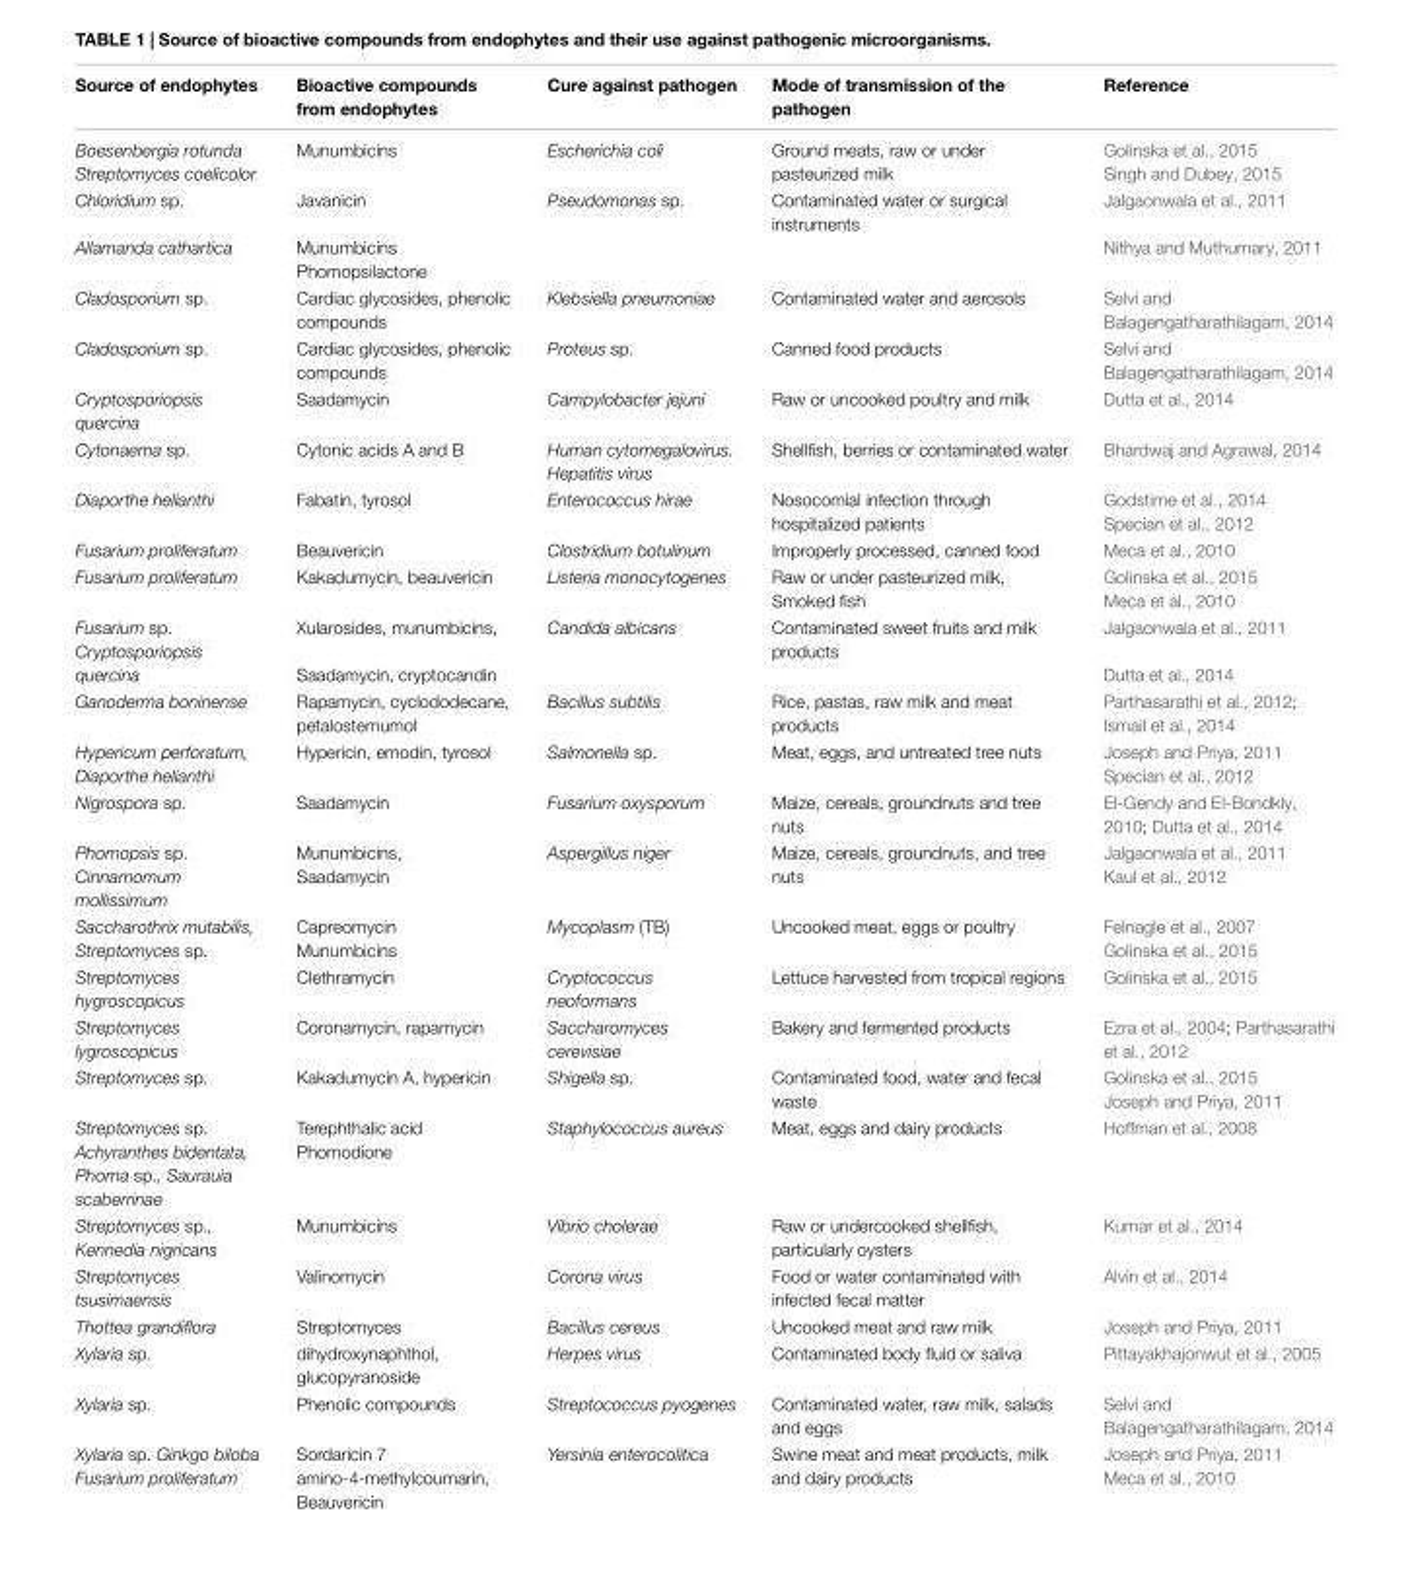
<table><thead><tr><td>Source of endophytes</td><td>Bioactive compounds from endophytes</td><td>Cure against pathogen</td><td>Mode of transmission of the pathogen</td><td>Reference</td></tr></thead><tbody><tr><td>Boesenbergia rotunda Streptomyces coelicolor</td><td>Munumbicins</td><td>Escherichia coli</td><td>Ground meats, raw or under pasteurized milk</td><td>Golinska et al., 2015 Singh and Dubey, 2015</td></tr><tr><td>Chloridium sp. Allamanda cathartica</td><td>Javanicin Munumbicins Phomopsilactone</td><td>Pseudomonas sp.</td><td>Contaminated water or surgical instruments</td><td>Jalgaonwala et al., 2011 Nithya and Muthumary, 2011</td></tr><tr><td>Cladosporium sp.</td><td>Cardiac glycosides, phenolic compounds</td><td>Klebsiella pneumoniae</td><td>Contaminated water and aerosols</td><td>Selvi and Balagengatharathilagam, 2014</td></tr><tr><td>Cladosporium sp.</td><td>Cardiac glycosides, phenolic compounds</td><td>Proteus sp.</td><td>Canned food products</td><td>Selvi and Balagengatharathilagam, 2014</td></tr><tr><td>Cryptosporiopsis quercina</td><td>Saadamycin</td><td>Campylobacter jejuni</td><td>Raw or uncooked poultry and milk</td><td>Dutta et al., 2014</td></tr><tr><td>Cytonaema sp.</td><td>Cytonic acids A and B</td><td>Human cytomegalovirus. Hepatitis virus</td><td>Shellfish, berries or contaminated water</td><td>Bhardwaj and Agrawal, 2014</td></tr><tr><td>Diaporthe helianthi</td><td>Fabatin, tyrosol</td><td>Enterococcus hirae</td><td>Nosocomial infection through hospitalized patients</td><td>Godstime et al., 2014 Specian et al., 2012</td></tr><tr><td>Fusarium proliferatum</td><td>Beauvericin</td><td>Clostridium botulinum</td><td>Improperly processed, canned food</td><td>Meca et al., 2010</td></tr><tr><td>Fusarium proliferatum</td><td>Kakadumycin, beauvericin</td><td>Listeria monocytogenes</td><td>Raw or under pasteurized milk, Smoked fish</td><td>Golinska et al., 2015 Meca et al., 2010</td></tr><tr><td>Fusarium sp. Cryptosporiopsis quercina</td><td>Xularosides, munumbicins, Saadamycin, cryptocandin</td><td>Candida albicans</td><td>Contaminated sweet fruits and milk products</td><td>Jalgaonwala et al., 2011 Dutta et al., 2014</td></tr><tr><td>Ganoderma boninense</td><td>Rapamycin, cyclododecane, petalostemumol</td><td>Bacillus subtilis</td><td>Rice, pastas, raw milk and meat products</td><td>Parthasarathi et al., 2012; Ismail et al., 2014</td></tr><tr><td>Hypericum perforatum, Diaporthe helianthi</td><td>Hypericin, emodin, tyrosol</td><td>Salmonella sp.</td><td>Meat, eggs, and untreated tree nuts</td><td>Joseph and Priya, 2011 Specian et al., 2012</td></tr><tr><td>Nigrospora sp.</td><td>Saadamycin</td><td>Fusarium oxysporum</td><td>Maize, cereals, groundnuts and tree nuts</td><td>El-Gendy and El-Bondkly, 2010; Dutta et al., 2014</td></tr><tr><td>Phomopsis sp. Cinnamomum mollissimum</td><td>Munumbicins, Saadamycin</td><td>Aspergillus niger</td><td>Maize, cereals, groundnuts, and tree nuts</td><td>Jalgaonwala et al., 2011 Kaul et al., 2012</td></tr><tr><td>Saccharothrix mutabilis, Streptomyces sp.</td><td>Capreomycin Munumbicins</td><td>Mycoplasm (TB)</td><td>Uncooked meat, eggs or poultry</td><td>Felnagle et al., 2007 Golinska et al., 2015</td></tr><tr><td>Streptomyces hygroscopicus</td><td>Clethramycin</td><td>Cryptococcus neoformans</td><td>Lettuce harvested from tropical regions</td><td>Golinska et al., 2015</td></tr><tr><td>Streptomyces lygroscopicus</td><td>Coronamycin, rapamycin</td><td>Saccharomyces cerevisiae</td><td>Bakery and fermented products</td><td>Ezra et al., 2004; Parthasarathi et al., 2012</td></tr><tr><td>Streptomyces sp.</td><td>Kakadumycin A, hypericin</td><td>Shigella sp.</td><td>Contaminated food, water and fecal waste</td><td>Golinska et al., 2015 Joseph and Priya, 2011</td></tr><tr><td>Streptomyces sp. Achyranthes bidentata, Phoma sp., Saurauia scaberrinae</td><td>Terephthalic acid Phomodione</td><td>Staphylococcus aureus</td><td>Meat, eggs and dairy products</td><td>Hoffman et al., 2008</td></tr><tr><td>Streptomyces sp., Kennedia nigricans</td><td>Munumbicins</td><td>Vibrio cholerae</td><td>Raw or undercooked shellfish, particularly oysters</td><td>Kumar et al., 2014</td></tr><tr><td>Streptomyces tsusimaensis</td><td>Valinomycin</td><td>Corona virus</td><td>Food or water contaminated with infected fecal matter</td><td>Alvin et al., 2014</td></tr><tr><td>Thottea grandiflora</td><td>Streptomyces</td><td>Bacillus cereus</td><td>Uncooked meat and raw milk</td><td>Joseph and Priya, 2011</td></tr><tr><td>Xylaria sp.</td><td>dihydroxynaphthol, glucopyranoside</td><td>Herpes virus</td><td>Contaminated body fluid or saliva</td><td>Pittayakhajonwut et al., 2005</td></tr><tr><td>Xylaria sp.</td><td>Phenolic compounds</td><td>Streptococcus pyogenes</td><td>Contaminated water, raw milk, salads and eggs</td><td>Selvi and Balagengatharathilagam, 2014</td></tr><tr><td>Xylaria sp. Ginkgo biloba Fusarium proliferatum</td><td>Sordaricin 7 amino-4-methylcoumarin, Beauvericin</td><td>Yersinia enterocolitica</td><td>Swine meat and meat products, milk and dairy products</td><td>Joseph and Priya, 2011 Meca et al., 2010</td></tr></tbody></table>